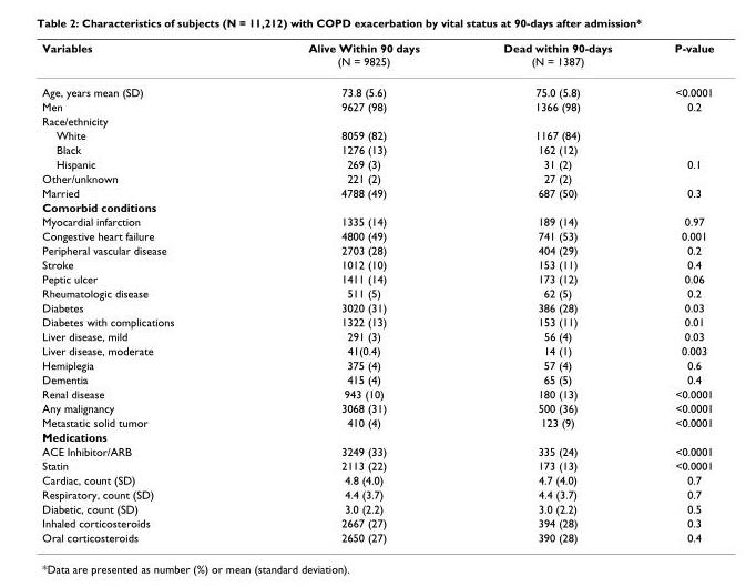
<table><thead><tr><td>Variables</td><td>Alive Within 90 days (N = 9825)</td><td>Dead within 90-days (N = 1387)</td><td>P-value</td></tr></thead><tbody><tr><td>Age, years mean (SD)</td><td>73.8 (5.6)</td><td>75.0 (5.8)</td><td>&lt;0.0001</td></tr><tr><td>Men</td><td>9627 (98)</td><td>1366 (98)</td><td>0.2</td></tr><tr><td colspan="4">Race/ethnicity</td></tr><tr><td>White</td><td>8059 (82)</td><td>1167 (84)</td><td></td></tr><tr><td>Black</td><td>1276 (13)</td><td>162 (12)</td><td></td></tr><tr><td>Hispanic</td><td>269 (3)</td><td>31 (2)</td><td>0.1</td></tr><tr><td>Other/unknown</td><td>221 (2)</td><td>27 (2)</td><td></td></tr><tr><td>Married</td><td>4788 (49)</td><td>687 (50)</td><td>0.3</td></tr><tr><td colspan="4">Comorbid conditions</td></tr><tr><td>Myocardial infarction</td><td>1335 (14)</td><td>189 (14)</td><td>0.97</td></tr><tr><td>Congestive heart failure</td><td>4800 (49)</td><td>741 (53)</td><td>0.001</td></tr><tr><td>Peripheral vascular disease</td><td>2703 (28)</td><td>404 (29)</td><td>0.2</td></tr><tr><td>Stroke</td><td>1012 (10)</td><td>153 (11)</td><td>0.4</td></tr><tr><td>Peptic ulcer</td><td>1411 (14)</td><td>173 (12)</td><td>0.06</td></tr><tr><td>Rheumatologic disease</td><td>511 (5)</td><td>62 (5)</td><td>0.2</td></tr><tr><td>Diabetes</td><td>3020 (31)</td><td>386 (28)</td><td>0.03</td></tr><tr><td>Diabetes with complications</td><td>1322 (13)</td><td>153 (11)</td><td>0.01</td></tr><tr><td>Liver disease, mild</td><td>291 (3)</td><td>56 (4)</td><td>0.03</td></tr><tr><td>Liver disease, moderate</td><td>41(0.4)</td><td>14 (1)</td><td>0.003</td></tr><tr><td>Hemiplegia</td><td>375 (4)</td><td>57 (4)</td><td>0.6</td></tr><tr><td>Dementia</td><td>415 (4)</td><td>65 (5)</td><td>0.4</td></tr><tr><td>Renal disease</td><td>943 (10)</td><td>180 (13)</td><td>&lt;0.0001</td></tr><tr><td>Any malignancy</td><td>3068 (31)</td><td>500 (36)</td><td>&lt;0.0001</td></tr><tr><td>Metastatic solid tumor</td><td>410 (4)</td><td>123 (9)</td><td>&lt;0.0001</td></tr><tr><td colspan="4">Medications</td></tr><tr><td>ACE Inhibitor/ARB</td><td>3249 (33)</td><td>335 (24)</td><td>&lt;0.0001</td></tr><tr><td>Statin</td><td>2113 (22)</td><td>173 (13)</td><td>&lt;0.0001</td></tr><tr><td>Cardiac, count (SD)</td><td>4.8 (4.0)</td><td>4.7 (4.0)</td><td>0.7</td></tr><tr><td>Respiratory, count (SD)</td><td>4.4 (3.7)</td><td>4.4 (3.7)</td><td>0.7</td></tr><tr><td>Diabetic, count (SD)</td><td>3.0 (2.2)</td><td>3.0 (2.2)</td><td>0.5</td></tr><tr><td>Inhaled corticosteroids</td><td>2667 (27)</td><td>394 (28)</td><td>0.3</td></tr><tr><td>Oral corticosteroids</td><td>2650 (27)</td><td>390 (28)</td><td>0.4</td></tr></tbody></table>